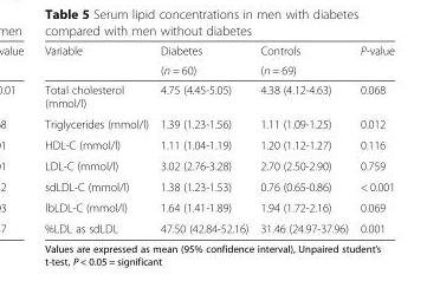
<table><thead><tr><td rowspan="2">Variable</td><td rowspan="2">Diabetes (n = 60)</td><td rowspan="2">Controls (n = 69)</td><td rowspan="2">P-value</td></tr><tr></tr></thead><tbody><tr><td>Total cholesterol (mmol/l)</td><td>4.75 (4.45-5.05)</td><td>4.38 (4.12-4.63)</td><td>0.068</td></tr><tr><td>Triglycerides (mmol/l)</td><td>1.39 (1.23-1.56)</td><td>1.11 (1.09-1.25)</td><td>0.012</td></tr><tr><td>HDL-C (mmol/l)</td><td>1.11 (1.04-1.19)</td><td>1.20 (1.12-1.27)</td><td>0.116</td></tr><tr><td>LDL-C (mmol/l)</td><td>3.02 (2.76-3.28)</td><td>2.70 (2.50-2.90)</td><td>0.759</td></tr><tr><td>sdLDL-C (mmol/l)</td><td>1.38 (1.23-1.53)</td><td>0.76 (0.65-0.86)</td><td>&lt; 0.001</td></tr><tr><td>lbLDL-C (mmol/l)</td><td>1.64 (1.41-1.89)</td><td>1.94 (1.72-2.16)</td><td>0.069</td></tr><tr><td>%LDL as sdLDL</td><td>47.50 (42.84-52.16)</td><td>31.46 (24.97-37.96)</td><td>0.001</td></tr></tbody></table>